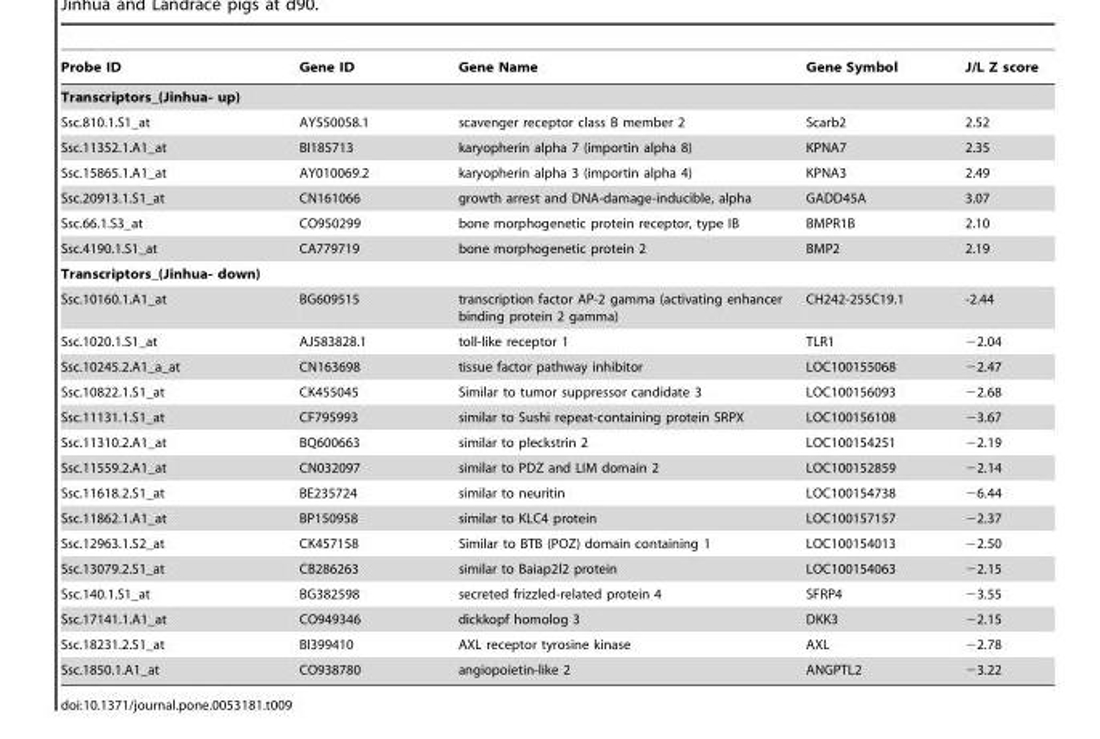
<table><thead><tr><td>Probe ID</td><td>Gene ID</td><td>Gene Name</td><td>Gene Symbol</td><td>J/L Z score</td></tr></thead><tbody><tr><td colspan="5">Transcriptors_(Jinhua- up)</td></tr><tr><td>Ssc.810.1.S1_at</td><td>AY550058.1</td><td>scavenger receptor class B member 2</td><td>Scarb2</td><td>2.52</td></tr><tr><td>Ssc.11352.1.A1_at</td><td>BI185713</td><td>karyopherin alpha 7 (importin alpha 8)</td><td>KPNA7</td><td>2.35</td></tr><tr><td>Ssc.15865.1.A1_at</td><td>AY010069.2</td><td>karyopherin alpha 3 (importin alpha 4)</td><td>KPNA3</td><td>2.49</td></tr><tr><td>Ssc.20913.1.S1_at</td><td>CN161066</td><td>growth arrest and DNA-damage-inducible, alpha</td><td>GADD45A</td><td>3.07</td></tr><tr><td>Ssc.66.1.S3_at</td><td>CO950299</td><td>bone morphogenetic protein receptor, type IB</td><td>BMPR1B</td><td>2.10</td></tr><tr><td>Ssc.4190.1.S1_at</td><td>CA779719</td><td>bone morphogenetic protein 2</td><td>BMP2</td><td>2.19</td></tr><tr><td colspan="5">Transcriptors_(Jinhua- down)</td></tr><tr><td>Ssc.10160.1.A1_at</td><td>BG609515</td><td>transcription factor AP-2 gamma (activating enhancer binding protein 2 gamma)</td><td>CH242-255C19.1</td><td>-2.44</td></tr><tr><td>Ssc.1020.1.S1_at</td><td>AJ583828.1</td><td>toll-like receptor 1</td><td>TLR1</td><td>−2.04</td></tr><tr><td>Ssc.10245.2.A1_a_at</td><td>CN163698</td><td>tissue factor pathway inhibitor</td><td>LOC100155068</td><td>−2.47</td></tr><tr><td>Ssc.10822.1.S1_at</td><td>CK455045</td><td>Similar to tumor suppressor candidate 3</td><td>LOC100156093</td><td>−2.68</td></tr><tr><td>Ssc.11131.1.S1_at</td><td>CF795993</td><td>similar to Sushi repeat-containing protein SRPX</td><td>LOC100156108</td><td>−3.67</td></tr><tr><td>Ssc.11310.2.A1_at</td><td>BQ600663</td><td>similar to pleckstrin 2</td><td>LOC100154251</td><td>−2.19</td></tr><tr><td>Ssc.11559.2.A1_at</td><td>CN032097</td><td>similar to PDZ and LIM domain 2</td><td>LOC100152859</td><td>−2.14</td></tr><tr><td>Ssc.11618.2.S1_at</td><td>BE235724</td><td>similar to neuritin</td><td>LOC100154738</td><td>−6.44</td></tr><tr><td>Ssc.11862.1.A1_at</td><td>BP150958</td><td>similar to KLC4 protein</td><td>LOC100157157</td><td>−2.37</td></tr><tr><td>Ssc.12963.1.S2_at</td><td>CK457158</td><td>Similar to BTB (POZ) domain containing 1</td><td>LOC100154013</td><td>−2.50</td></tr><tr><td>Ssc.13079.2.S1_at</td><td>CB286263</td><td>similar to Baiap2l2 protein</td><td>LOC100154063</td><td>−2.15</td></tr><tr><td>Ssc.140.1.S1_at</td><td>BG382598</td><td>secreted frizzled-related protein 4</td><td>SFRP4</td><td>−3.55</td></tr><tr><td>Ssc.17141.1.A1_at</td><td>CO949346</td><td>dickkopf homolog 3</td><td>DKK3</td><td>−2.15</td></tr><tr><td>Ssc.18231.2.S1_at</td><td>BI399410</td><td>AXL receptor tyrosine kinase</td><td>AXL</td><td>−2.78</td></tr><tr><td>Ssc.1850.1.A1_at</td><td>CO938780</td><td>angiopoietin-like 2</td><td>ANGPTL2</td><td>−3.22</td></tr></tbody></table>